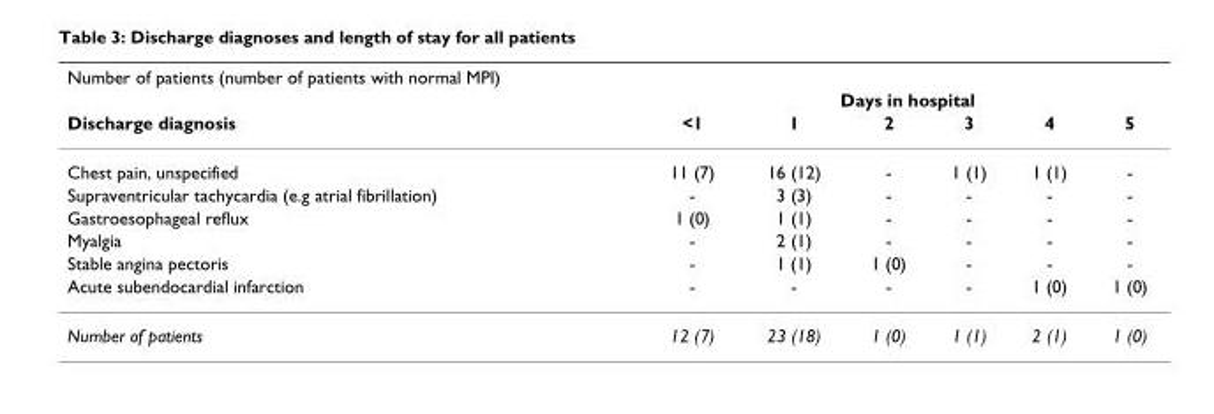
<table><thead><tr><td colspan="7">Number of patients (number of patients with normal MPI)</td></tr><tr><td rowspan="2">Discharge diagnosis</td><td colspan="6">Days in hospital</td></tr><tr><td>&lt;1</td><td>1</td><td>2</td><td>3</td><td>4</td><td>5</td></tr></thead><tbody><tr><td>Chest pain, unspecified</td><td>11 (7)</td><td>16 (12)</td><td>-</td><td>1 (1)</td><td>1 (1)</td><td>-</td></tr><tr><td>Supraventricular tachycardia (e.g atrial fibrillation)</td><td>-</td><td>3 (3)</td><td>-</td><td>-</td><td>-</td><td>-</td></tr><tr><td>Gastroesophageal reflux</td><td>1 (0)</td><td>1 (1)</td><td>-</td><td>-</td><td>-</td><td>-</td></tr><tr><td>Myalgia</td><td>-</td><td>2 (1)</td><td>-</td><td>-</td><td>-</td><td>-</td></tr><tr><td>Stable angina pectoris</td><td>-</td><td>1 (1)</td><td>1 (0)</td><td>-</td><td>-</td><td>-</td></tr><tr><td>Acute subendocardial infarction</td><td>-</td><td>-</td><td>-</td><td>-</td><td>1 (0)</td><td>1 (0)</td></tr><tr><td>Number of patients</td><td>12 (7)</td><td>23 (18)</td><td>1 (0)</td><td>1 (1)</td><td>2 (1)</td><td>1 (0)</td></tr></tbody></table>